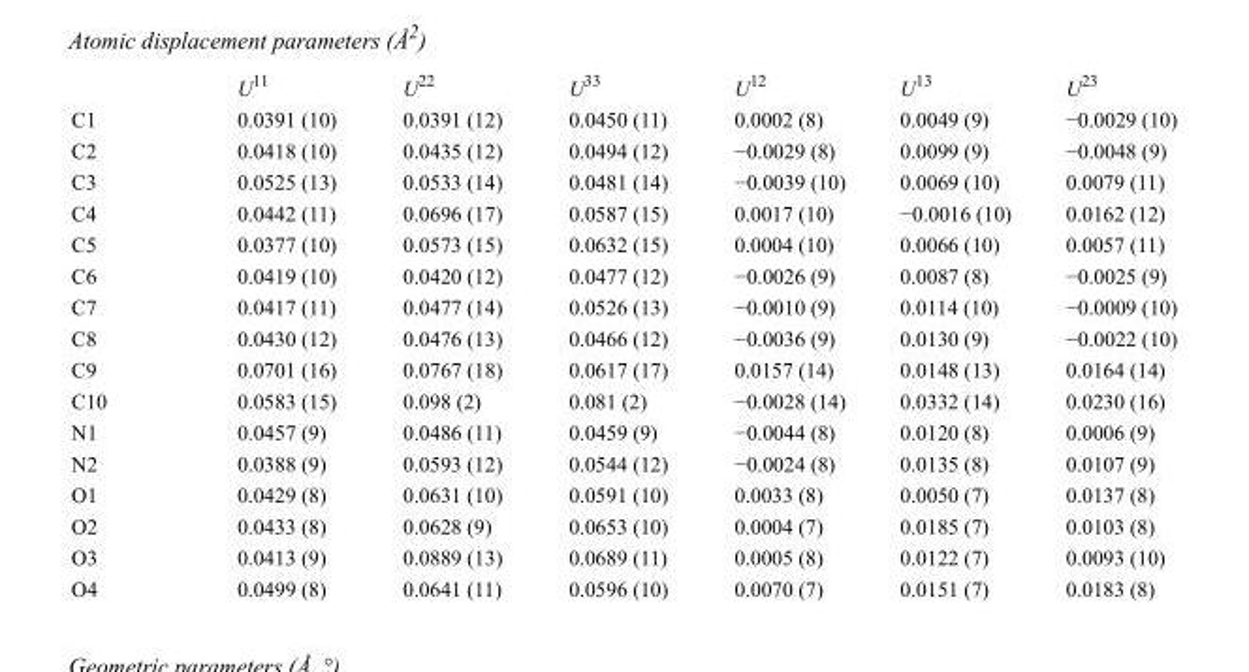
<table><thead><tr><td></td><td>U<sup>11</sup></td><td>U<sup>22</sup></td><td>U<sup>33</sup></td><td>U<sup>12</sup></td><td>U<sup>13</sup></td><td>U<sup>23</sup></td></tr></thead><tbody><tr><td>C1</td><td>0.0391 (10)</td><td>0.0391 (12)</td><td>0.0450 (11)</td><td>0.0002 (8)</td><td>0.0049 (9)</td><td>−0.0029 (10)</td></tr><tr><td>C2</td><td>0.0418 (10)</td><td>0.0435 (12)</td><td>0.0494 (12)</td><td>−0.0029 (8)</td><td>0.0099 (9)</td><td>−0.0048 (9)</td></tr><tr><td>C3</td><td>0.0525 (13)</td><td>0.0533 (14)</td><td>0.0481 (14)</td><td>−0.0039 (10)</td><td>0.0069 (10)</td><td>0.0079 (11)</td></tr><tr><td>C4</td><td>0.0442 (11)</td><td>0.0696 (17)</td><td>0.0587 (15)</td><td>0.0017 (10)</td><td>−0.0016 (10)</td><td>0.0162 (12)</td></tr><tr><td>C5</td><td>0.0377 (10)</td><td>0.0573 (15)</td><td>0.0632 (15)</td><td>0.0004 (10)</td><td>0.0066 (10)</td><td>0.0057 (11)</td></tr><tr><td>C6</td><td>0.0419 (10)</td><td>0.0420 (12)</td><td>0.0477 (12)</td><td>−0.0026 (9)</td><td>0.0087 (8)</td><td>−0.0025 (9)</td></tr><tr><td>C7</td><td>0.0417 (11)</td><td>0.0477 (14)</td><td>0.0526 (13)</td><td>−0.0010 (9)</td><td>0.0114 (10)</td><td>−0.0009 (10)</td></tr><tr><td>C8</td><td>0.0430 (12)</td><td>0.0476 (13)</td><td>0.0466 (12)</td><td>−0.0036 (9)</td><td>0.0130 (9)</td><td>−0.0022 (10)</td></tr><tr><td>C9</td><td>0.0701 (16)</td><td>0.0767 (18)</td><td>0.0617 (17)</td><td>0.0157 (14)</td><td>0.0148 (13)</td><td>0.0164 (14)</td></tr><tr><td>C10</td><td>0.0583 (15)</td><td>0.098 (2)</td><td>0.081 (2)</td><td>−0.0028 (14)</td><td>0.0332 (14)</td><td>0.0230 (16)</td></tr><tr><td>N1</td><td>0.0457 (9)</td><td>0.0486 (11)</td><td>0.0459 (9)</td><td>−0.0044 (8)</td><td>0.0120 (8)</td><td>0.0006 (9)</td></tr><tr><td>N2</td><td>0.0388 (9)</td><td>0.0593 (12)</td><td>0.0544 (12)</td><td>−0.0024 (8)</td><td>0.0135 (8)</td><td>0.0107 (9)</td></tr><tr><td>O1</td><td>0.0429 (8)</td><td>0.0631 (10)</td><td>0.0591 (10)</td><td>0.0033 (8)</td><td>0.0050 (7)</td><td>0.0137 (8)</td></tr><tr><td>O2</td><td>0.0433 (8)</td><td>0.0628 (9)</td><td>0.0653 (10)</td><td>0.0004 (7)</td><td>0.0185 (7)</td><td>0.0103 (8)</td></tr><tr><td>O3</td><td>0.0413 (9)</td><td>0.0889 (13)</td><td>0.0689 (11)</td><td>0.0005 (8)</td><td>0.0122 (7)</td><td>0.0093 (10)</td></tr><tr><td>O4</td><td>0.0499 (8)</td><td>0.0641 (11)</td><td>0.0596 (10)</td><td>0.0070 (7)</td><td>0.0151 (7)</td><td>0.0183 (8)</td></tr></tbody></table>